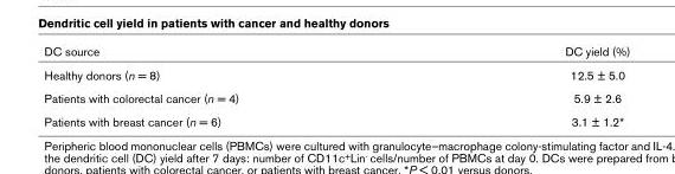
<table><thead><tr><td>DC source</td><td>DC yield (%)</td></tr></thead><tbody><tr><td>Healthy donors (n = 8)</td><td>12.5 ± 5.0</td></tr><tr><td>Patients with colorectal cancer (n = 4)</td><td>5.9 ± 2.6</td></tr><tr><td>Patients with breast cancer (n = 6)</td><td>3.1 ± 1.2*</td></tr></tbody></table>